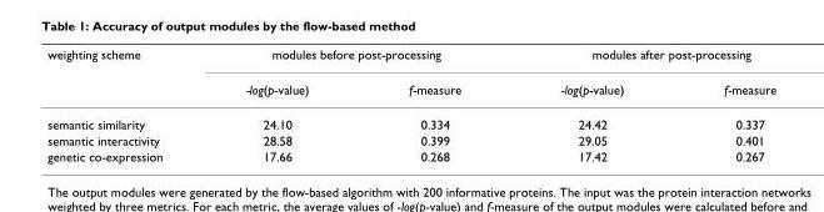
<table><thead><tr><td rowspan="2">weighting scheme</td><td colspan="2">modules before post-processing</td><td colspan="2">modules after post-processing</td></tr><tr><td>-log(p-value)</td><td>f-measure</td><td>-log(p-value)</td><td>f-measure</td></tr></thead><tbody><tr><td>semantic similarity</td><td>24.10</td><td>0.334</td><td>24.42</td><td>0.337</td></tr><tr><td>semantic interactivity</td><td>28.58</td><td>0.399</td><td>29.05</td><td>0.401</td></tr><tr><td>genetic co-expression</td><td>17.66</td><td>0.268</td><td>17.42</td><td>0.267</td></tr></tbody></table>